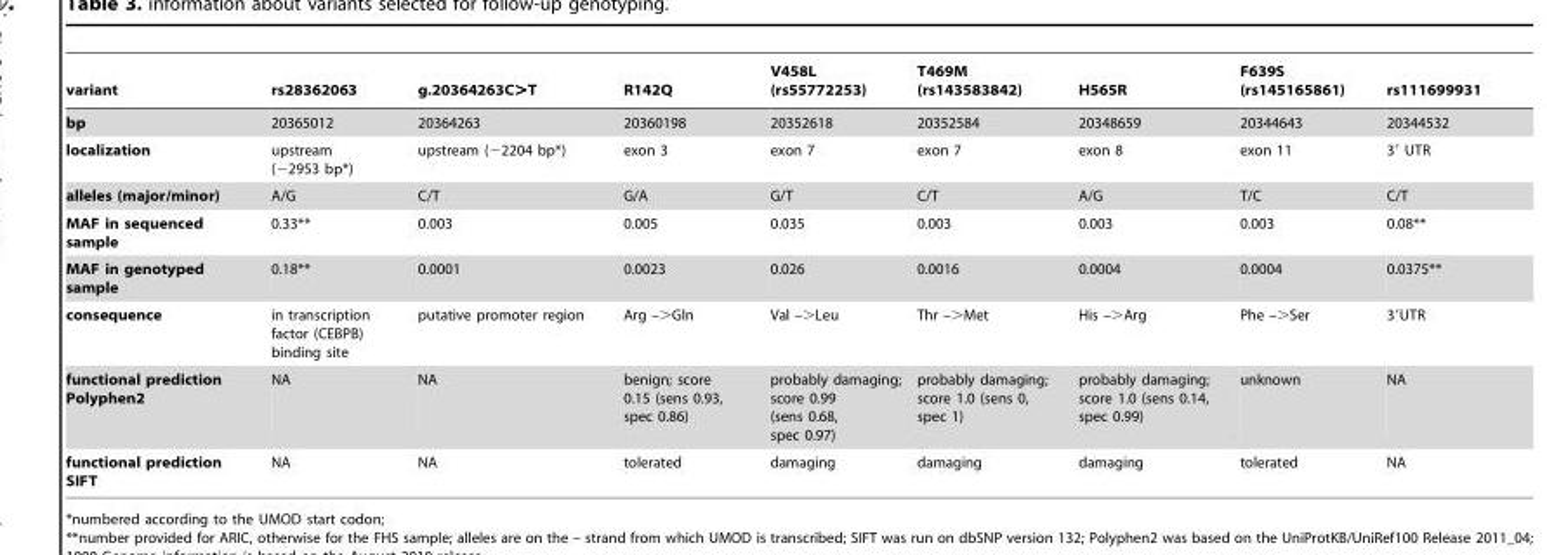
<table><thead><tr><td>variant</td><td>rs28362063</td><td>g.20364263C&gt;T</td><td>R142Q</td><td>V458L (rs55772253)</td><td>T469M (rs143583842)</td><td>H565R</td><td>F639S (rs145165861)</td><td>rs111699931</td></tr></thead><tbody><tr><td>bp</td><td>20365012</td><td>20364263</td><td>20360198</td><td>20352618</td><td>20352584</td><td>20348659</td><td>20344643</td><td>20344532</td></tr><tr><td>localization</td><td>upstream (−2953 bp*)</td><td>upstream (−2204 bp*)</td><td>exon 3</td><td>exon 7</td><td>exon 7</td><td>exon 8</td><td>exon 11</td><td>3′ UTR</td></tr><tr><td>alleles (major/minor)</td><td>A/G</td><td>C/T</td><td>G/A</td><td>G/T</td><td>C/T</td><td>A/G</td><td>T/C</td><td>C/T</td></tr><tr><td>MAF in sequenced sample</td><td>0.33**</td><td>0.003</td><td>0.005</td><td>0.035</td><td>0.003</td><td>0.003</td><td>0.003</td><td>0.08**</td></tr><tr><td>MAF in genotyped sample</td><td>0.18**</td><td>0.0001</td><td>0.0023</td><td>0.026</td><td>0.0016</td><td>0.0004</td><td>0.0004</td><td>0.0375**</td></tr><tr><td>consequence</td><td>in transcription factor (CEBPB) binding site</td><td>putative promoter region</td><td>Arg –&gt;Gln</td><td>Val –&gt;Leu</td><td>Thr –&gt;Met</td><td>His –&gt;Arg</td><td>Phe –&gt;Ser</td><td>3′UTR</td></tr><tr><td>functional prediction Polyphen2</td><td>NA</td><td>NA</td><td>benign; score 0.15 (sens 0.93, spec 0.86)</td><td>probably damaging; score 0.99 (sens 0.68, spec 0.97)</td><td>probably damaging; score 1.0 (sens 0, spec 1)</td><td>probably damaging; score 1.0 (sens 0.14, spec 0.99)</td><td>unknown</td><td>NA</td></tr><tr><td>functional prediction SIFT</td><td>NA</td><td>NA</td><td>tolerated</td><td>damaging</td><td>damaging</td><td>damaging</td><td>tolerated</td><td>NA</td></tr></tbody></table>